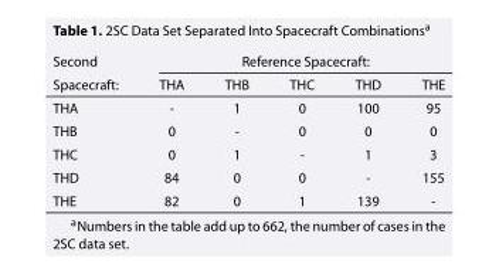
<table><thead><tr><td rowspan="2">Second Spacecraft:</td><td colspan="5">Reference Spacecraft:</td></tr><tr><td>THA</td><td>THB</td><td>THC</td><td>THD</td><td>THE</td></tr></thead><tbody><tr><td>THA</td><td>-</td><td>1</td><td>0</td><td>100</td><td>95</td></tr><tr><td>THB</td><td>0</td><td>-</td><td>0</td><td>0</td><td>0</td></tr><tr><td>THC</td><td>0</td><td>1</td><td>-</td><td>1</td><td>3</td></tr><tr><td>THD</td><td>84</td><td>0</td><td>0</td><td>-</td><td>155</td></tr><tr><td>THE</td><td>82</td><td>0</td><td>1</td><td>139</td><td>-</td></tr></tbody></table>